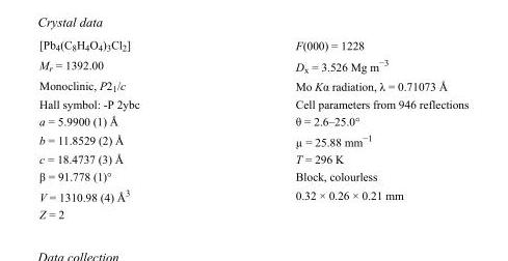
<table><tbody><tr><td>[Pb<sub>4</sub>(C<sub>8</sub>H<sub>4</sub>O<sub>4</sub>)<sub>3</sub>Cl<sub>2</sub>]</td><td>F(000) = 1228</td></tr><tr><td>M<sub>r</sub> = 1392.00</td><td>D<sub>x</sub> = 3.526 Mg m<sup>−3</sup></td></tr><tr><td>Monoclinic, P2<sub>1</sub>/c</td><td>Mo Kα radiation, λ = 0.71073 Å</td></tr><tr><td>Hall symbol: -P 2ybc</td><td>Cell parameters from 946 reflections</td></tr><tr><td>a = 5.9900 (1) Å</td><td>θ = 2.6–25.0°</td></tr><tr><td>b = 11.8529 (2) Å</td><td>µ = 25.88 mm<sup>−1</sup></td></tr><tr><td>c = 18.4737 (3) Å</td><td>T = 296 K</td></tr><tr><td>β = 91.778 (1)°</td><td>Block, colourless</td></tr><tr><td>V = 1310.98 (4) Å<sup>3</sup></td><td>0.32 × 0.26 × 0.21 mm</td></tr><tr><td>Z = 2</td><td></td></tr></tbody></table>